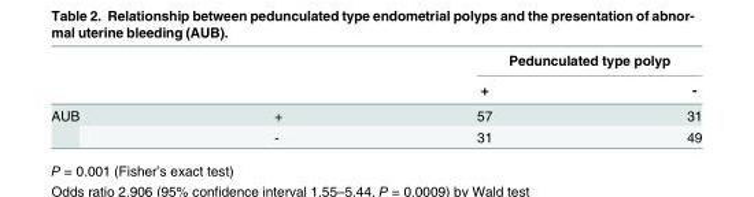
<table><thead><tr><td rowspan="2"></td><td rowspan="2"></td><td colspan="2">Pedunculated type polyp</td></tr><tr><td>+</td><td>-</td></tr></thead><tbody><tr><td rowspan="2">AUB</td><td>+</td><td>57</td><td>31</td></tr><tr><td>-</td><td>31</td><td>49</td></tr></tbody></table>